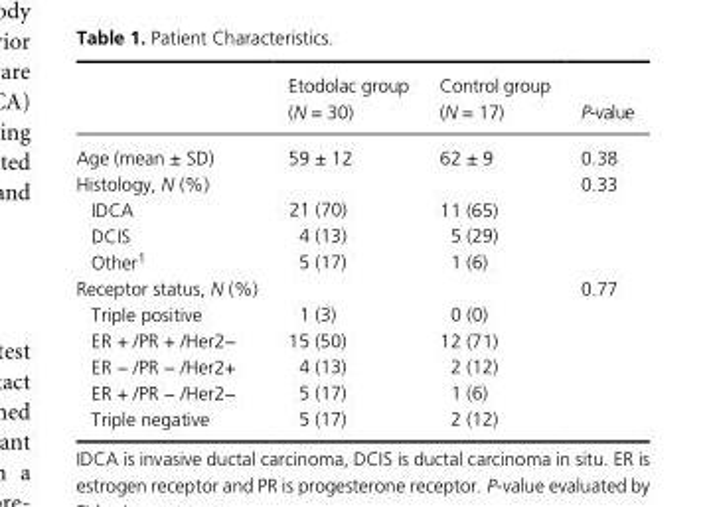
<table><thead><tr><td></td><td>Etodolac group (N = 30)</td><td>Control group (N = 17)</td><td>P- value</td></tr></thead><tbody><tr><td>Age (mean ± SD)</td><td>59 ± 12</td><td>62 ± 9</td><td>0.38</td></tr><tr><td>Histology, N (%)</td><td></td><td></td><td>0.33</td></tr><tr><td>IDCA</td><td>21 (70)</td><td>11 (65)</td><td></td></tr><tr><td>DCIS</td><td>4 (13)</td><td>5 (29)</td><td></td></tr><tr><td>Other<sup>1</sup></td><td>5 (17)</td><td>1 (6)</td><td></td></tr><tr><td>Receptor status, N (%)</td><td></td><td></td><td>0.77</td></tr><tr><td>Triple positive</td><td>1 (3)</td><td>0 (0)</td><td></td></tr><tr><td>ER + /PR + /Her2−</td><td>15 (50)</td><td>12 (71)</td><td></td></tr><tr><td>ER − /PR − /Her2+</td><td>4 (13)</td><td>2 (12)</td><td></td></tr><tr><td>ER + /PR − /Her2−</td><td>5 (17)</td><td>1 (6)</td><td></td></tr><tr><td>Triple negative</td><td>5 (17)</td><td>2 (12)</td><td></td></tr></tbody></table>